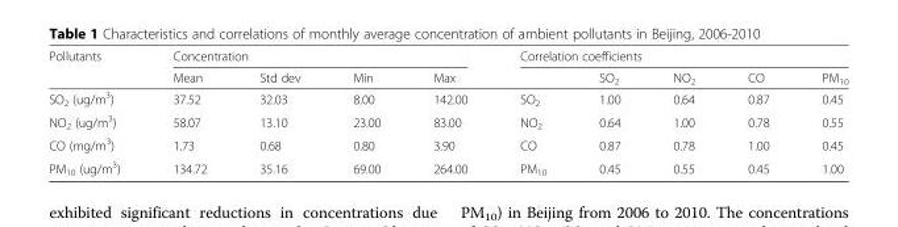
<table><thead><tr><td rowspan="2">Pollutants</td><td colspan="4">Concentration</td><td colspan="5">Correlation coefficients</td></tr><tr><td>Mean</td><td>Std dev</td><td>Min</td><td>Max</td><td></td><td>SO<sub>2</sub></td><td>NO<sub>2</sub></td><td>CO</td><td>PM<sub>10</sub></td></tr></thead><tbody><tr><td>SO<sub>2</sub> (ug/m<sup>3</sup>)</td><td>37.52</td><td>32.03</td><td>8.00</td><td>142.00</td><td>SO<sub>2</sub></td><td>1.00</td><td>0.64</td><td>0.87</td><td>0.45</td></tr><tr><td>NO<sub>2</sub> (ug/m<sup>3</sup>)</td><td>58.07</td><td>13.10</td><td>23.00</td><td>83.00</td><td>NO<sub>2</sub></td><td>0.64</td><td>1.00</td><td>0.78</td><td>0.55</td></tr><tr><td>CO (mg/m<sup>3</sup>)</td><td>1.73</td><td>0.68</td><td>0.80</td><td>3.90</td><td>CO</td><td>0.87</td><td>0.78</td><td>1.00</td><td>0.45</td></tr><tr><td>PM<sub>10</sub> (ug/m<sup>3</sup>)</td><td>134.72</td><td>35.16</td><td>69.00</td><td>264.00</td><td>PM<sub>10</sub></td><td>0.45</td><td>0.55</td><td>0.45</td><td>1.00</td></tr></tbody></table>